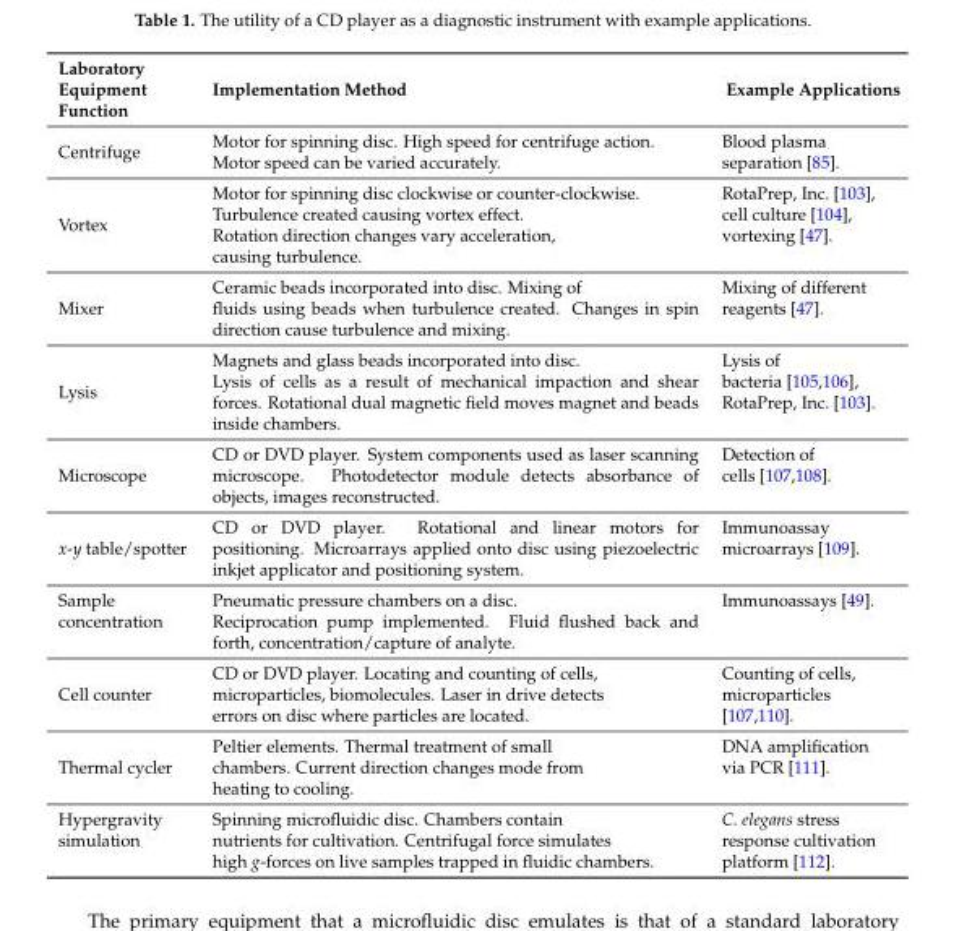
<table><thead><tr><td>Laboratory Equipment Function</td><td>Implementation Method</td><td>Example Applications</td></tr></thead><tbody><tr><td>Centrifuge</td><td>Motor for spinning disc. High speed for centrifuge action. Motor speed can be varied accurately.</td><td>Blood plasma separation [85].</td></tr><tr><td>Vortex</td><td>Motor for spinning disc clockwise or counter-clockwise. Turbulence created causing vortex effect. Rotation direction changes vary acceleration, causing turbulence.</td><td>RotaPrep, Inc. [103], cell culture [104], vortexing [47].</td></tr><tr><td>Mixer</td><td>Ceramic beads incorporated into disc. Mixing of fluids using beads when turbulence created. Changes in spin direction cause turbulence and mixing.</td><td>Mixing of different reagents [47].</td></tr><tr><td>Lysis</td><td>Magnets and glass beads incorporated into disc. Lysis of cells as a result of mechanical impaction and shear forces. Rotational dual magnetic field moves magnet and beads inside chambers.</td><td>Lysis of bacteria [105,106], RotaPrep, Inc. [103].</td></tr><tr><td>Microscope</td><td>CD or DVD player. System components used as laser scanning microscope. Photodetector module detects absorbance of objects, images reconstructed.</td><td>Detection of cells [107,108].</td></tr><tr><td>x-y table/spotter</td><td>CD or DVD player. Rotational and linear motors for positioning. Microarrays applied onto disc using piezoelectric inkjet applicator and positioning system.</td><td>Immunoassay microarrays [109].</td></tr><tr><td>Sample concentration</td><td>Pneumatic pressure chambers on a disc. Reciprocation pump implemented. Fluid flushed back and forth, concentration/capture of analyte.</td><td>Immunoassays [49].</td></tr><tr><td>Cell counter</td><td>CD or DVD player. Locating and counting of cells, microparticles, biomolecules. Laser in drive detects errors on disc where particles are located.</td><td>Counting of cells, microparticles [107,110].</td></tr><tr><td>Thermal cycler</td><td>Peltier elements. Thermal treatment of small chambers. Current direction changes mode from heating to cooling.</td><td>DNA amplification via PCR [111].</td></tr><tr><td>Hypergravity simulation</td><td>Spinning microfluidic disc. Chambers contain nutrients for cultivation. Centrifugal force simulates high g-forces on live samples trapped in fluidic chambers.</td><td>C. elegans stress response cultivation platform [112].</td></tr></tbody></table>